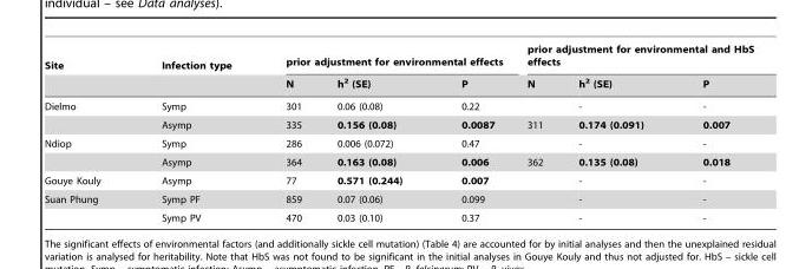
<table><thead><tr><td rowspan="2">Site</td><td rowspan="2">Infection type</td><td colspan="3">prior adjustment for environmental effects</td><td colspan="3">prior adjustment for environmental and HbS effects</td></tr><tr><td>N</td><td>h<sup>2</sup> (SE)</td><td>P</td><td>N</td><td>h<sup>2</sup> (SE)</td><td>P</td></tr></thead><tbody><tr><td rowspan="2">Dielmo</td><td>Symp</td><td>301</td><td>0.06 (0.08)</td><td>0.22</td><td></td><td>-</td><td>-</td></tr><tr><td>Asymp</td><td>335</td><td>0.156 (0.08)</td><td>0.0087</td><td>311</td><td>0.174 (0.091)</td><td>0.007</td></tr><tr><td rowspan="2">Ndiop</td><td>Symp</td><td>286</td><td>0.006 (0.072)</td><td>0.47</td><td></td><td>-</td><td>-</td></tr><tr><td>Asymp</td><td>364</td><td>0.163 (0.08)</td><td>0.006</td><td>362</td><td>0.135 (0.08)</td><td>0.018</td></tr><tr><td>Gouye Kouly</td><td>Asymp</td><td>77</td><td>0.571 (0.244)</td><td>0.007</td><td></td><td>-</td><td>-</td></tr><tr><td rowspan="2">Suan Phung</td><td>Symp PF</td><td>859</td><td>0.07 (0.06)</td><td>0.099</td><td></td><td>-</td><td>-</td></tr><tr><td>Symp PV</td><td>470</td><td>0.03 (0.10)</td><td>0.37</td><td></td><td>-</td><td>-</td></tr></tbody></table>